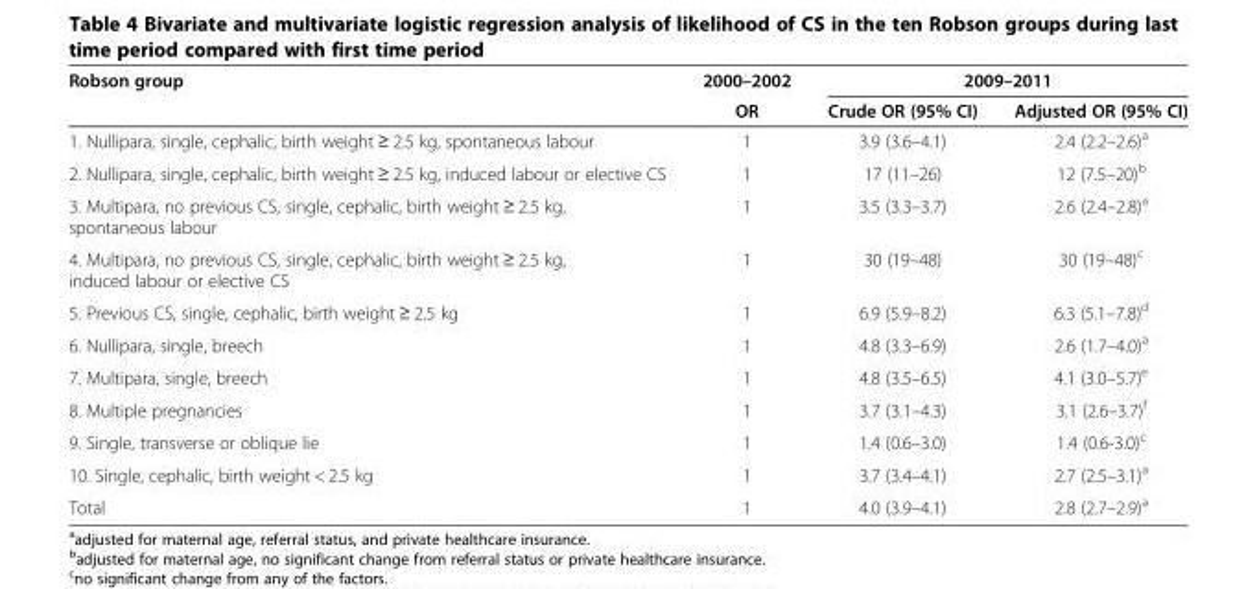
<table><thead><tr><td rowspan="2">Robson group</td><td rowspan="2">2000–2002 OR</td><td colspan="2">2009–2011</td></tr><tr><td>Crude OR (95% CI)</td><td>Adjusted OR (95% CI)</td></tr></thead><tbody><tr><td>1. Nullipara, single, cephalic, birth weight ≥ 2.5 kg, spontaneous labour</td><td>1</td><td>3.9 (3.6–4.1)</td><td>2.4 (2.2–2.6)<sup>a</sup></td></tr><tr><td>2. Nullipara, single, cephalic, birth weight ≥ 2.5 kg, induced labour or elective CS</td><td>1</td><td>17 (11–26)</td><td>12 (7.5–20)<sup>b</sup></td></tr><tr><td>3. Multipara, no previous CS, single, cephalic, birth weight ≥ 2.5 kg, spontaneous labour</td><td>1</td><td>3.5 (3.3–3.7)</td><td>2.6 (2.4–2.8)<sup>a</sup></td></tr><tr><td>4. Multipara, no previous CS, single, cephalic, birth weight ≥ 2.5 kg, induced labour or elective CS</td><td>1</td><td>30 (19–48)</td><td>30 (19–48)<sup>c</sup></td></tr><tr><td>5. Previous CS, single, cephalic, birth weight ≥ 2.5 kg</td><td>1</td><td>6.9 (5.9–8.2)</td><td>6.3 (5.1–7.8)<sup>d</sup></td></tr><tr><td>6. Nullipara, single, breech</td><td>1</td><td>4.8 (3.3–6.9)</td><td>2.6 (1.7–4.0)<sup>a</sup></td></tr><tr><td>7. Multipara, single, breech</td><td>1</td><td>4.8 (3.5–6.5)</td><td>4.1 (3.0–5.7)<sup>e</sup></td></tr><tr><td>8. Multiple pregnancies</td><td>1</td><td>3.7 (3.1–4.3)</td><td>3.1 (2.6–3.7)<sup>f</sup></td></tr><tr><td>9. Single, transverse or oblique lie</td><td>1</td><td>1.4 (0.6–3.0)</td><td>1.4 (0.6-3.0)<sup>c</sup></td></tr><tr><td>10. Single, cephalic, birth weight &lt; 2.5 kg</td><td>1</td><td>3.7 (3.4–4.1)</td><td>2.7 (2.5–3.1)<sup>a</sup></td></tr><tr><td>Total</td><td>1</td><td>4.0 (3.9–4.1)</td><td>2.8 (2.7–2.9)<sup>a</sup></td></tr></tbody></table>